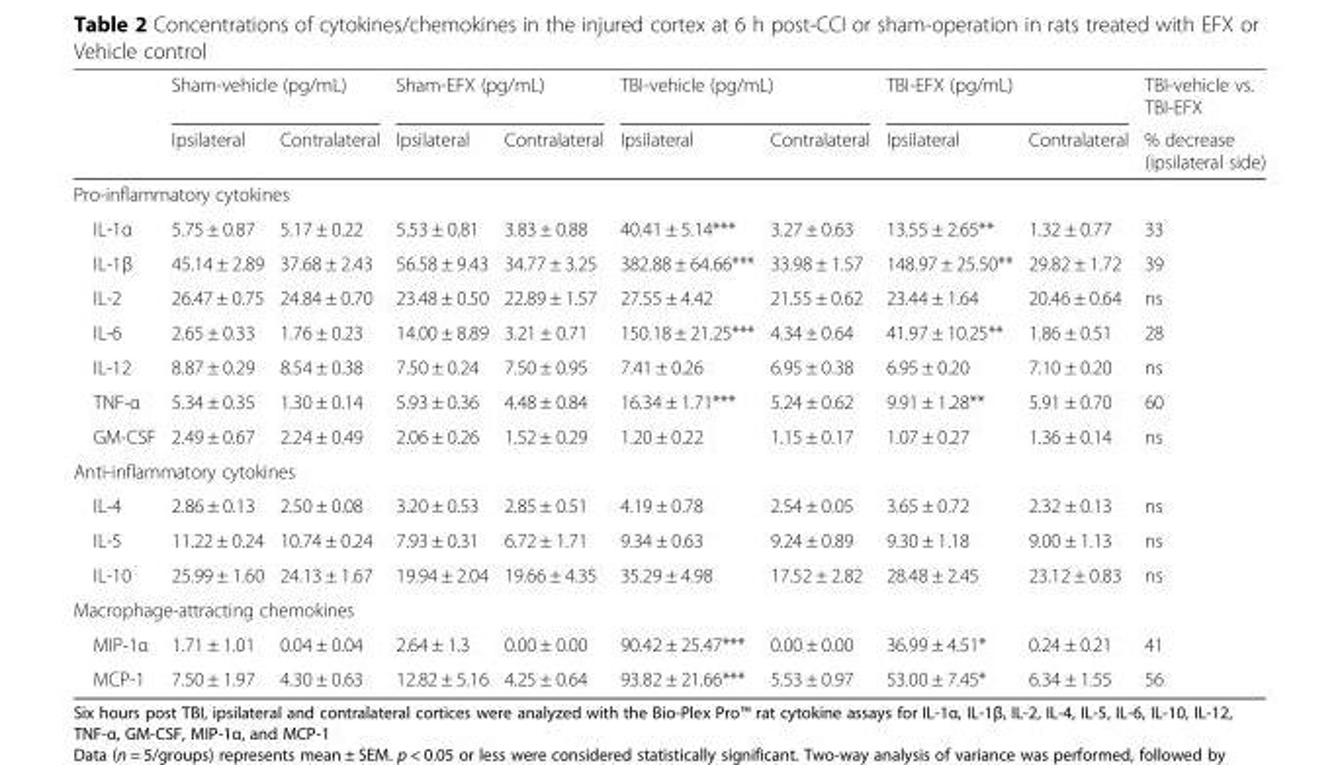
<table><thead><tr><td rowspan="2"></td><td colspan="2">Sham-vehicle (pg/mL)</td><td colspan="2">Sham-EFX (pg/mL)</td><td colspan="2">TBI-vehicle (pg/mL)</td><td colspan="2">TBI-EFX (pg/mL)</td><td rowspan="2">TBI-vehicle vs. TBI-EFX % decrease (ipsilateral side)</td></tr><tr><td>Ipsilateral</td><td>Contralateral</td><td>Ipsilateral</td><td>Contralateral</td><td>Ipsilateral</td><td>Contralateral</td><td>Ipsilateral</td><td>Contralateral</td></tr></thead><tbody><tr><td colspan="10">Pro-inflammatory cytokines</td></tr><tr><td>IL-1α</td><td>5.75 ± 0.87</td><td>5.17 ± 0.22</td><td>5.53 ± 0.81</td><td>3.83 ± 0.88</td><td>40.41 ± 5.14***</td><td>3.27 ± 0.63</td><td>13.55 ± 2.65**</td><td>1.32 ± 0.77</td><td>33</td></tr><tr><td>IL-1β</td><td>45.14 ± 2.89</td><td>37.68 ± 2.43</td><td>56.58 ± 9.43</td><td>34.77 ± 3.25</td><td>382.88 ± 64.66***</td><td>33.98 ± 1.57</td><td>148.97 ± 25.50**</td><td>29.82 ± 1.72</td><td>39</td></tr><tr><td>IL-2</td><td>26.47 ± 0.75</td><td>24.84 ± 0.70</td><td>23.48 ± 0.50</td><td>22.89 ± 1.57</td><td>27.55 ± 4.42</td><td>21.55 ± 0.62</td><td>23.44 ± 1.64</td><td>20.46 ± 0.64</td><td>ns</td></tr><tr><td>IL-6</td><td>2.65 ± 0.33</td><td>1.76 ± 0.23</td><td>14.00 ± 8.89</td><td>3.21 ± 0.71</td><td>150.18 ± 21.25***</td><td>4.34 ± 0.64</td><td>41.97 ± 10.25**</td><td>1.86 ± 0.51</td><td>28</td></tr><tr><td>IL-12</td><td>8.87 ± 0.29</td><td>8.54 ± 0.38</td><td>7.50 ± 0.24</td><td>7.50 ± 0.95</td><td>7.41 ± 0.26</td><td>6.95 ± 0.38</td><td>6.95 ± 0.20</td><td>7.10 ± 0.20</td><td>ns</td></tr><tr><td>TNF-α</td><td>5.34 ± 0.35</td><td>1.30 ± 0.14</td><td>5.93 ± 0.36</td><td>4.48 ± 0.84</td><td>16.34 ± 1.71***</td><td>5.24 ± 0.62</td><td>9.91 ± 1.28**</td><td>5.91 ± 0.70</td><td>60</td></tr><tr><td>GM-CSF</td><td>2.49 ± 0.67</td><td>2.24 ± 0.49</td><td>2.06 ± 0.26</td><td>1.52 ± 0.29</td><td>1.20 ± 0.22</td><td>1.15 ± 0.17</td><td>1.07 ± 0.27</td><td>1.36 ± 0.14</td><td>ns</td></tr><tr><td colspan="10">Anti-inflammatory cytokines</td></tr><tr><td>IL-4</td><td>2.86 ± 0.13</td><td>2.50 ± 0.08</td><td>3.20 ± 0.53</td><td>2.85 ± 0.51</td><td>4.19 ± 0.78</td><td>2.54 ± 0.05</td><td>3.65 ± 0.72</td><td>2.32 ± 0.13</td><td>ns</td></tr><tr><td>IL-5</td><td>11.22 ± 0.24</td><td>10.74 ± 0.24</td><td>7.93 ± 0.31</td><td>6.72 ± 1.71</td><td>9.34 ± 0.63</td><td>9.24 ± 0.89</td><td>9.30 ± 1.18</td><td>9.00 ± 1.13</td><td>ns</td></tr><tr><td>IL-10</td><td>25.99 ± 1.60</td><td>24.13 ± 1.67</td><td>19.94 ± 2.04</td><td>19.66 ± 4.35</td><td>35.29 ± 4.98</td><td>17.52 ± 2.82</td><td>28.48 ± 2.45</td><td>23.12 ± 0.83</td><td>ns</td></tr><tr><td colspan="10">Macrophage-attracting chemokines</td></tr><tr><td>MIP-1α</td><td>1.71 ± 1.01</td><td>0.04 ± 0.04</td><td>2.64 ± 1.3</td><td>0.00 ± 0.00</td><td>90.42 ± 25.47***</td><td>0.00 ± 0.00</td><td>36.99 ± 4.51*</td><td>0.24 ± 0.21</td><td>41</td></tr><tr><td>MCP-1</td><td>7.50 ± 1.97</td><td>4.30 ± 0.63</td><td>12.82 ± 5.16</td><td>4.25 ± 0.64</td><td>93.82 ± 21.66***</td><td>5.53 ± 0.97</td><td>53.00 ± 7.45*</td><td>6.34 ± 1.55</td><td>56</td></tr></tbody></table>